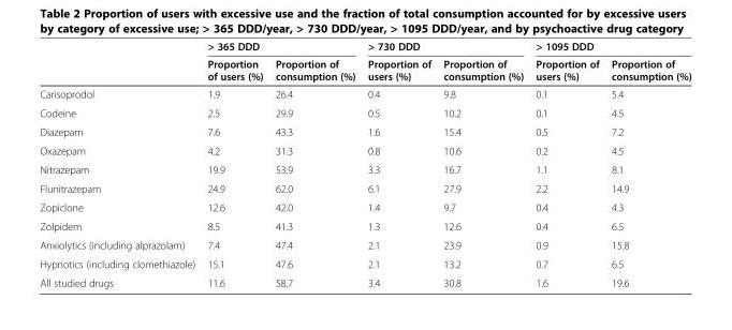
<table><thead><tr><td rowspan="2"></td><td colspan="2">&gt; 365 DDD</td><td colspan="2">&gt; 730 DDD</td><td colspan="2">&gt; 1095 DDD</td></tr><tr><td>Proportion of users (%)</td><td>Proportion of consumption (%)</td><td>Proportion of users (%)</td><td>Proportion of consumption (%)</td><td>Proportion of users (%)</td><td>Proportion of consumption (%)</td></tr></thead><tbody><tr><td>Carisoprodol</td><td>1.9</td><td>26.4</td><td>0.4</td><td>9.8</td><td>0.1</td><td>5.4</td></tr><tr><td>Codeine</td><td>2.5</td><td>29.9</td><td>0.5</td><td>10.2</td><td>0.1</td><td>4.5</td></tr><tr><td>Diazepam</td><td>7.6</td><td>43.3</td><td>1.6</td><td>15.4</td><td>0.5</td><td>7.2</td></tr><tr><td>Oxazepam</td><td>4.2</td><td>31.3</td><td>0.8</td><td>10.6</td><td>0.2</td><td>4.5</td></tr><tr><td>Nitrazepam</td><td>19.9</td><td>53.9</td><td>3.3</td><td>16.7</td><td>1.1</td><td>8.1</td></tr><tr><td>Flunitrazepam</td><td>24.9</td><td>62.0</td><td>6.1</td><td>27.9</td><td>2.2</td><td>14.9</td></tr><tr><td>Zopiclone</td><td>12.6</td><td>42.0</td><td>1.4</td><td>9.7</td><td>0.4</td><td>4.3</td></tr><tr><td>Zolpidem</td><td>8.5</td><td>41.3</td><td>1.3</td><td>12.6</td><td>0.4</td><td>6.5</td></tr><tr><td>Anxiolytics (including alprazolam)</td><td>7.4</td><td>47.4</td><td>2.1</td><td>23.9</td><td>0.9</td><td>15.8</td></tr><tr><td>Hypnotics (including clomethiazole)</td><td>15.1</td><td>47.6</td><td>2.1</td><td>13.2</td><td>0.7</td><td>6.5</td></tr><tr><td>All studied drugs</td><td>11.6</td><td>58.7</td><td>3.4</td><td>30.8</td><td>1.6</td><td>19.6</td></tr></tbody></table>